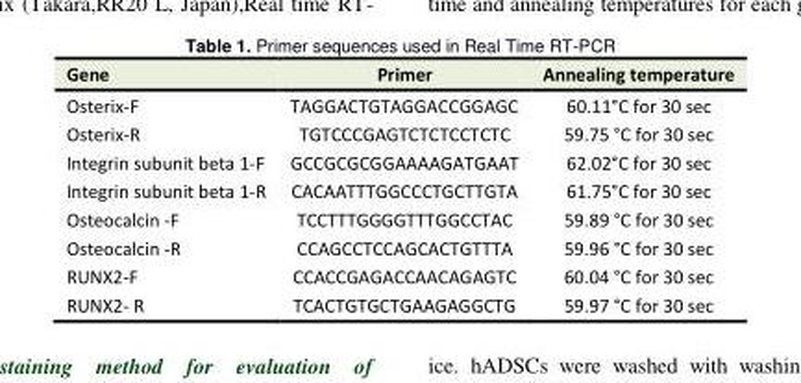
<table><tbody><tr><td>Gene</td><td>Primer</td><td>Annealing temperature</td></tr><tr><td>Osterix-F</td><td>TAGGACTGTAGGACCGGAGC</td><td>60.11°C for 30 sec</td></tr><tr><td>Osterix-R</td><td>TGTCCCGAGTCTCTCCTCTC</td><td>59.75 °C for 30 sec</td></tr><tr><td>Integrin subunit beta 1-F</td><td>GCCGCGCGGAAAAGATGAAT</td><td>62.02°C for 30 sec</td></tr><tr><td>Integrin subunit beta 1-R</td><td>CACAATTTGGCCCTGCTTGTA</td><td>61.75°C for 30 sec</td></tr><tr><td>Osteocalcin -F</td><td>TCCTTTGGGGTTTGGCCTAC</td><td>59.89 °C for 30 sec</td></tr><tr><td>Osteocalcin -R</td><td>CCAGCCTCCAGCACTGTTTA</td><td>59.96 °C for 30 sec</td></tr><tr><td>RUNX2-F</td><td>CCACCGAGACCAACAGAGTC</td><td>60.04 °C for 30 sec</td></tr><tr><td>RUNX2- R</td><td>TCACTGTGCTGAAGAGGCTG</td><td>59.97 °C for 30 sec</td></tr></tbody></table>